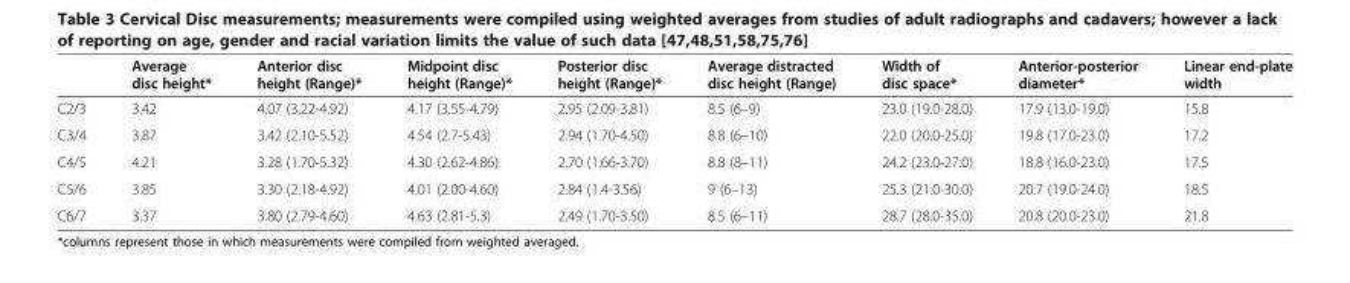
<table><thead><tr><td></td><td>Average disc height*</td><td>Anterior disc height (Range)*</td><td>Midpoint disc height (Range)*</td><td>Posterior disc height (Range)*</td><td>Average distracted disc height (Range)</td><td>Width of disc space*</td><td>Anterior-posterior diameter*</td><td>Linear end-plate width</td></tr></thead><tbody><tr><td>C2/3</td><td>3.42</td><td>4.07 (3.22-4.92)</td><td>4.17 (3.55-4.79)</td><td>2.95 (2.09-3.81)</td><td>8.5 (6–9)</td><td>23.0 (19.0-28.0)</td><td>17.9 (13.0-19.0)</td><td>15.8</td></tr><tr><td>C3/4</td><td>3.87</td><td>3.42 (2.10-5.52)</td><td>4.54 (2.7-5.43)</td><td>2.94 (1.70-4.50)</td><td>8.8 (6–10)</td><td>22.0 (20.0-25.0)</td><td>19.8 (17.0-23.0)</td><td>17.2</td></tr><tr><td>C4/5</td><td>4.21</td><td>3.28 (1.70-5.32)</td><td>4.30 (2.62-4.86)</td><td>2.70 (1.66-3.70)</td><td>8.8 (8–11)</td><td>24.2 (23.0-27.0)</td><td>18.8 (16.0-23.0)</td><td>17.5</td></tr><tr><td>C5/6</td><td>3.85</td><td>3.30 (2.18-4.92)</td><td>4.01 (2.00-4.60)</td><td>2.84 (1.4-3.56)</td><td>9 (6–13)</td><td>25.3 (21.0-30.0)</td><td>20.7 (19.0-24.0)</td><td>18.5</td></tr><tr><td>C6/7</td><td>3.37</td><td>3.80 (2.79-4.60)</td><td>4.63 (2.81-5.3)</td><td>2.49 (1.70-3.50)</td><td>8.5 (6–11)</td><td>28.7 (28.0-35.0)</td><td>20.8 (20.0-23.0)</td><td>21.8</td></tr></tbody></table>